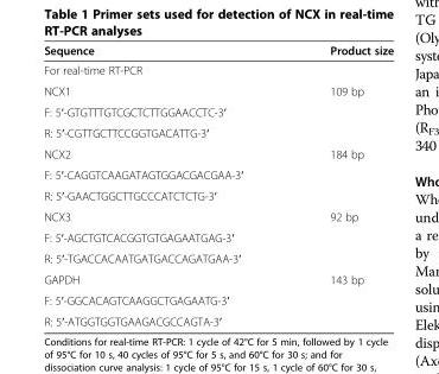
<table><thead><tr><td>Sequence</td><td>Product size</td></tr></thead><tbody><tr><td colspan="2">For real-time RT-PCR</td></tr><tr><td>NCX1</td><td>109 bp</td></tr><tr><td colspan="2">F: 5′-GTGTTTGTCGCTCTTGGAACCTC-3′</td></tr><tr><td colspan="2">R: 5′-CGTTGCTTCCGGTGACATTG-3′</td></tr><tr><td>NCX2</td><td>184 bp</td></tr><tr><td colspan="2">F: 5′-CAGGTCAAGATAGTGGACGACGAA-3′</td></tr><tr><td colspan="2">R: 5′-GAACTGGCTTGCCCATCTCTG-3′</td></tr><tr><td>NCX3</td><td>92 bp</td></tr><tr><td colspan="2">F: 5′-AGCTGTCACGGTGTGAGAATGAG-3′</td></tr><tr><td colspan="2">R: 5′-TGACCACAATGATGACCAGATGAA-3′</td></tr><tr><td>GAPDH</td><td>143 bp</td></tr><tr><td colspan="2">F: 5′-GGCACAGTCAAGGCTGAGAATG-3′</td></tr><tr><td>R: 5′-ATGGTGGTGAAGACGCCAGTA-3′</td><td></td></tr></tbody></table>